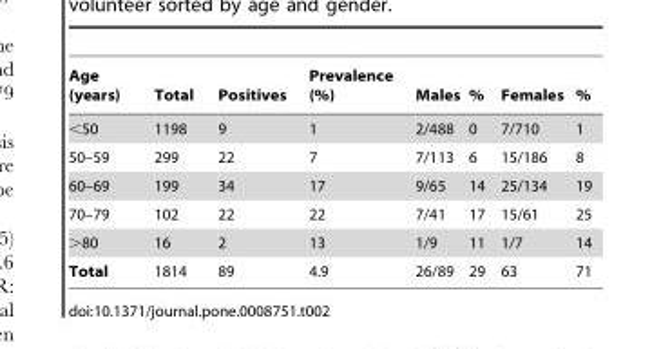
<table><thead><tr><td>Age (years)</td><td>Total</td><td>Positives</td><td>Prevalence (%)</td><td>Males</td><td>%</td><td>Females</td><td>%</td></tr></thead><tbody><tr><td>&lt;50</td><td>1198</td><td>9</td><td>1</td><td>2/488</td><td>0</td><td>7/710</td><td>1</td></tr><tr><td>50–59</td><td>299</td><td>22</td><td>7</td><td>7/113</td><td>6</td><td>15/186</td><td>8</td></tr><tr><td>60–69</td><td>199</td><td>34</td><td>17</td><td>9/65</td><td>14</td><td>25/134</td><td>19</td></tr><tr><td>70–79</td><td>102</td><td>22</td><td>22</td><td>7/41</td><td>17</td><td>15/61</td><td>25</td></tr><tr><td>&gt;80</td><td>16</td><td>2</td><td>13</td><td>1/9</td><td>11</td><td>1/7</td><td>14</td></tr><tr><td>Total</td><td>1814</td><td>89</td><td>4.9</td><td>26/89</td><td>29</td><td>63</td><td>71</td></tr></tbody></table>